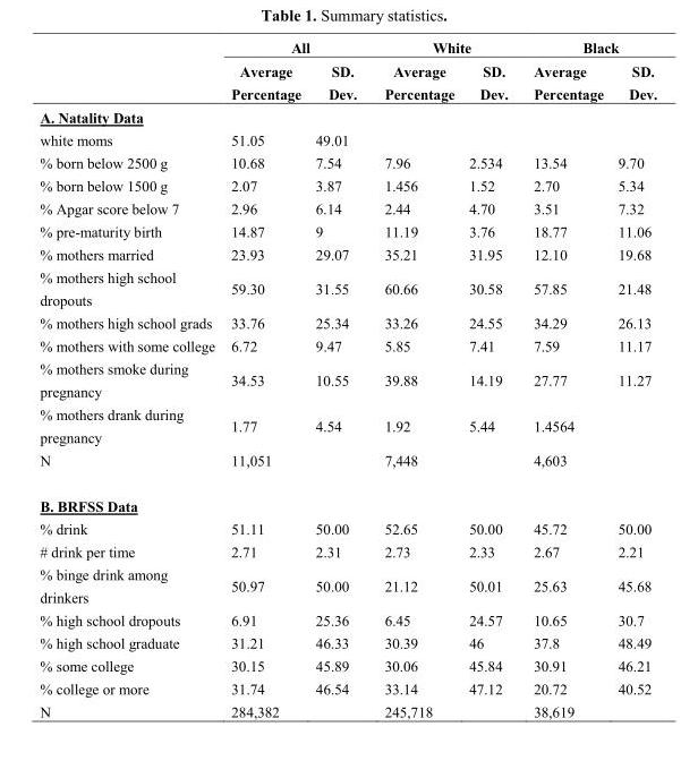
<table><thead><tr><td rowspan="2"></td><td colspan="2">All</td><td colspan="2">White</td><td colspan="2">Black</td></tr><tr><td>Average Percentage</td><td>SD. Dev.</td><td>Average Percentage</td><td>SD. Dev.</td><td>Average Percentage</td><td>SD. Dev.</td></tr></thead><tbody><tr><td colspan="7">A. Natality Data</td></tr><tr><td>white moms</td><td>51.05</td><td>49.01</td><td></td><td></td><td></td><td></td></tr><tr><td>% born below 2500 g</td><td>10.68</td><td>7.54</td><td>7.96</td><td>2.534</td><td>13.54</td><td>9.70</td></tr><tr><td>% born below 1500 g</td><td>2.07</td><td>3.87</td><td>1.456</td><td>1.52</td><td>2.70</td><td>5.34</td></tr><tr><td>% Apgar score below 7</td><td>2.96</td><td>6.14</td><td>2.44</td><td>4.70</td><td>3.51</td><td>7.32</td></tr><tr><td>% pre-maturity birth</td><td>14.87</td><td>9</td><td>11.19</td><td>3.76</td><td>18.77</td><td>11.06</td></tr><tr><td>% mothers married</td><td>23.93</td><td>29.07</td><td>35.21</td><td>31.95</td><td>12.10</td><td>19.68</td></tr><tr><td>% mothers high school dropouts</td><td>59.30</td><td>31.55</td><td>60.66</td><td>30.58</td><td>57.85</td><td>21.48</td></tr><tr><td>% mothers high school grads</td><td>33.76</td><td>25.34</td><td>33.26</td><td>24.55</td><td>34.29</td><td>26.13</td></tr><tr><td>% mothers with some college</td><td>6.72</td><td>9.47</td><td>5.85</td><td>7.41</td><td>7.59</td><td>11.17</td></tr><tr><td>% mothers smoke during pregnancy</td><td>34.53</td><td>10.55</td><td>39.88</td><td>14.19</td><td>27.77</td><td>11.27</td></tr><tr><td>% mothers drank during pregnancy</td><td>1.77</td><td>4.54</td><td>1.92</td><td>5.44</td><td>1.4564</td><td></td></tr><tr><td>N</td><td>11,051</td><td></td><td>7,448</td><td></td><td>4,603</td><td></td></tr><tr><td colspan="7">B. BRFSS Data</td></tr><tr><td>% drink</td><td>51.11</td><td>50.00</td><td>52.65</td><td>50.00</td><td>45.72</td><td>50.00</td></tr><tr><td># drink per time</td><td>2.71</td><td>2.31</td><td>2.73</td><td>2.33</td><td>2.67</td><td>2.21</td></tr><tr><td>% binge drink among drinkers</td><td>50.97</td><td>50.00</td><td>21.12</td><td>50.01</td><td>25.63</td><td>45.68</td></tr><tr><td>% high school dropouts</td><td>6.91</td><td>25.36</td><td>6.45</td><td>24.57</td><td>10.65</td><td>30.7</td></tr><tr><td>% high school graduate</td><td>31.21</td><td>46.33</td><td>30.39</td><td>46</td><td>37.8</td><td>48.49</td></tr><tr><td>% some college</td><td>30.15</td><td>45.89</td><td>30.06</td><td>45.84</td><td>30.91</td><td>46.21</td></tr><tr><td>% college or more</td><td>31.74</td><td>46.54</td><td>33.14</td><td>47.12</td><td>20.72</td><td>40.52</td></tr><tr><td>N</td><td>284,382</td><td></td><td>245,718</td><td></td><td>38,619</td><td></td></tr></tbody></table>